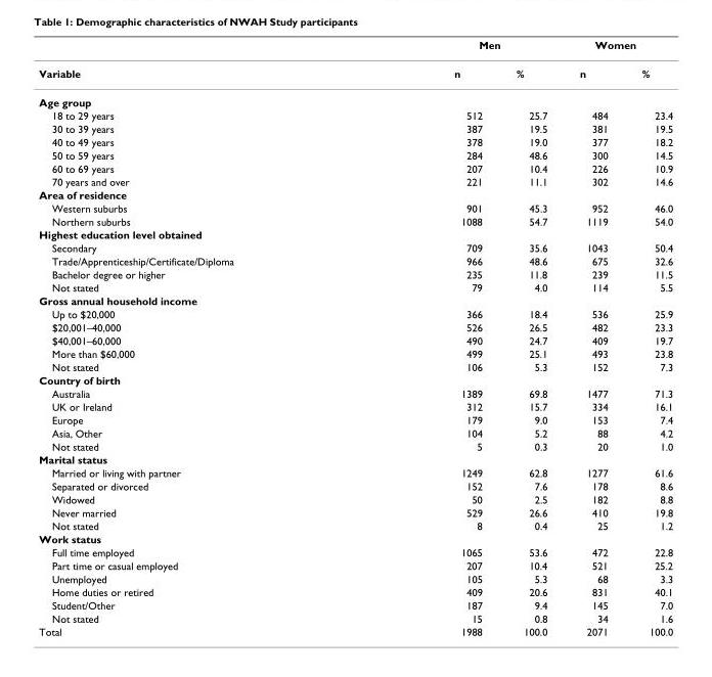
<table><thead><tr><td rowspan="2">Variable</td><td colspan="2">Men</td><td colspan="2">Women</td></tr><tr><td>n</td><td>%</td><td>n</td><td>%</td></tr></thead><tbody><tr><td colspan="5">Age group</td></tr><tr><td>18 to 29 years</td><td>512</td><td>25.7</td><td>484</td><td>23.4</td></tr><tr><td>30 to 39 years</td><td>387</td><td>19.5</td><td>381</td><td>19.5</td></tr><tr><td>40 to 49 years</td><td>378</td><td>19.0</td><td>377</td><td>18.2</td></tr><tr><td>50 to 59 years</td><td>284</td><td>48.6</td><td>300</td><td>14.5</td></tr><tr><td>60 to 69 years</td><td>207</td><td>10.4</td><td>226</td><td>10.9</td></tr><tr><td>70 years and over</td><td>221</td><td>11.1</td><td>302</td><td>14.6</td></tr><tr><td colspan="5">Area of residence</td></tr><tr><td>Western suburbs</td><td>901</td><td>45.3</td><td>952</td><td>46.0</td></tr><tr><td>Northern suburbs</td><td>1088</td><td>54.7</td><td>1119</td><td>54.0</td></tr><tr><td colspan="5">Highest education level obtained</td></tr><tr><td>Secondary</td><td>709</td><td>35.6</td><td>1043</td><td>50.4</td></tr><tr><td>Trade/Apprenticeship/Certificate/Diploma</td><td>966</td><td>48.6</td><td>675</td><td>32.6</td></tr><tr><td>Bachelor degree or higher</td><td>235</td><td>11.8</td><td>239</td><td>11.5</td></tr><tr><td>Not stated</td><td>79</td><td>4.0</td><td>114</td><td>5.5</td></tr><tr><td colspan="5">Gross annual household income</td></tr><tr><td>Up to $20,000</td><td>366</td><td>18.4</td><td>536</td><td>25.9</td></tr><tr><td>$20,001–40,000</td><td>526</td><td>26.5</td><td>482</td><td>23.3</td></tr><tr><td>$40,001–60,000</td><td>490</td><td>24.7</td><td>409</td><td>19.7</td></tr><tr><td>More than $60,000</td><td>499</td><td>25.1</td><td>493</td><td>23.8</td></tr><tr><td>Not stated</td><td>106</td><td>5.3</td><td>152</td><td>7.3</td></tr><tr><td colspan="5">Country of birth</td></tr><tr><td>Australia</td><td>1389</td><td>69.8</td><td>1477</td><td>71.3</td></tr><tr><td>UK or Ireland</td><td>312</td><td>15.7</td><td>334</td><td>16.1</td></tr><tr><td>Europe</td><td>179</td><td>9.0</td><td>153</td><td>7.4</td></tr><tr><td>Asia, Other</td><td>104</td><td>5.2</td><td>88</td><td>4.2</td></tr><tr><td>Not stated</td><td>5</td><td>0.3</td><td>20</td><td>1.0</td></tr><tr><td colspan="5">Marital status</td></tr><tr><td>Married or living with partner</td><td>1249</td><td>62.8</td><td>1277</td><td>61.6</td></tr><tr><td>Separated or divorced</td><td>152</td><td>7.6</td><td>178</td><td>8.6</td></tr><tr><td>Widowed</td><td>50</td><td>2.5</td><td>182</td><td>8.8</td></tr><tr><td>Never married</td><td>529</td><td>26.6</td><td>410</td><td>19.8</td></tr><tr><td>Not stated</td><td>8</td><td>0.4</td><td>25</td><td>1.2</td></tr><tr><td colspan="5">Work status</td></tr><tr><td>Full time employed</td><td>1065</td><td>53.6</td><td>472</td><td>22.8</td></tr><tr><td>Part time or casual employed</td><td>207</td><td>10.4</td><td>521</td><td>25.2</td></tr><tr><td>Unemployed</td><td>105</td><td>5.3</td><td>68</td><td>3.3</td></tr><tr><td>Home duties or retired</td><td>409</td><td>20.6</td><td>831</td><td>40.1</td></tr><tr><td>Student/Other</td><td>187</td><td>9.4</td><td>145</td><td>7.0</td></tr><tr><td>Not stated</td><td>15</td><td>0.8</td><td>34</td><td>1.6</td></tr><tr><td>Total</td><td>1988</td><td>100.0</td><td>2071</td><td>100.0</td></tr></tbody></table>